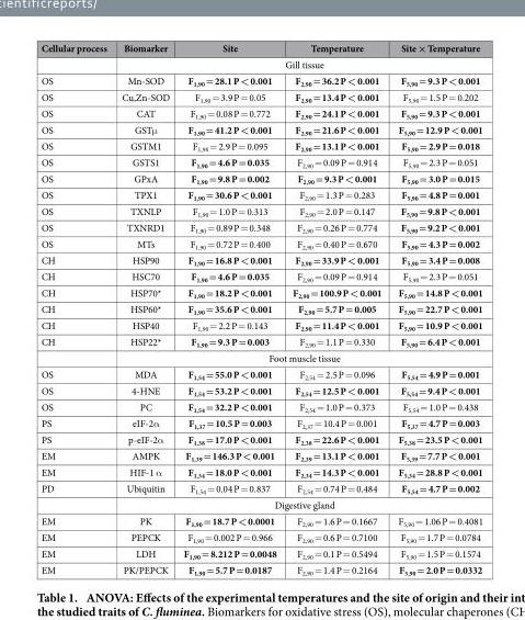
<table><thead><tr><td>Cellular process</td><td>Biomarker</td><td>Site</td><td>Temperature</td><td>Site × Temperature</td></tr></thead><tbody><tr><td></td><td colspan="4">Gill tissue</td></tr><tr><td>OS</td><td>Mn-SOD</td><td>F<sub>1,90</sub> = 28.1 P &lt; 0.001</td><td>F<sub>2,90</sub> = 36.2 P &lt; 0.001</td><td>F<sub>5,90</sub> = 9.3 P &lt; 0.001</td></tr><tr><td>OS</td><td>Cu,Zn-SOD</td><td>F<sub>1,90</sub> = 3.9 P = 0.05</td><td>F<sub>2,90</sub> = 13.4 P &lt; 0.001</td><td>F<sub>5,90</sub> = 1.5 P = 0.202</td></tr><tr><td>OS</td><td>CAT</td><td>F<sub>1,90</sub> = 0.08 P = 0.772</td><td>F<sub>2,90</sub> = 24.1 P &lt; 0.001</td><td>F<sub>5,90</sub> = 9.3 P &lt; 0.001</td></tr><tr><td>OS</td><td>GSTμ</td><td>F<sub>1,90</sub> = 41.2 P &lt; 0.001</td><td>F<sub>2,90</sub> = 21.6 P &lt; 0.001</td><td>F<sub>5,90</sub> = 12.9 P &lt; 0.001</td></tr><tr><td>OS</td><td>GSTM1</td><td>F<sub>1,90</sub> = 2.9 P = 0.095</td><td>F<sub>2,90</sub> = 13.1 P &lt; 0.001</td><td>F<sub>5,90</sub> = 2.9 P = 0.018</td></tr><tr><td>OS</td><td>GSTS1</td><td>F<sub>1,90</sub> = 4.6 P = 0.035</td><td>F<sub>2,90</sub> = 0.09 P = 0.914</td><td>F<sub>5,90</sub> = 2.3 P = 0.051</td></tr><tr><td>OS</td><td>GPxA</td><td>F<sub>1,90</sub> = 9.8 P = 0.002</td><td>F<sub>2,90</sub> = 9.3 P &lt; 0.001</td><td>F<sub>5,90</sub> = 3.0 P = 0.015</td></tr><tr><td>OS</td><td>TPX1</td><td>F<sub>1,90</sub> = 30.6 P &lt; 0.001</td><td>F<sub>2,90</sub> = 1.3 P = 0.283</td><td>F<sub>5,90</sub> = 4.8 P = 0.001</td></tr><tr><td>OS</td><td>TXNLP</td><td>F<sub>1,90</sub> = 1.0 P = 0.313</td><td>F<sub>2,90</sub> = 2.0 P = 0.147</td><td>F<sub>5,90</sub> = 9.8 P &lt; 0.001</td></tr><tr><td>OS</td><td>TXNRD1</td><td>F<sub>1,90</sub> = 0.89 P = 0.348</td><td>F<sub>2,90</sub> = 0.26 P = 0.774</td><td>F<sub>5,90</sub> = 9.2 P &lt; 0.001</td></tr><tr><td>OS</td><td>MTs</td><td>F<sub>1,90</sub> = 0.72 P = 0.400</td><td>F<sub>2,90</sub> = 0.40 P = 0.670</td><td>F<sub>5,90</sub> = 4.3 P = 0.002</td></tr><tr><td>CH</td><td>HSP90</td><td>F<sub>1,90</sub> = 16.8 P &lt; 0.001</td><td>F<sub>2,90</sub> = 33.9 P &lt; 0.001</td><td>F<sub>5,90</sub> = 3.4 P = 0.008</td></tr><tr><td>CH</td><td>HSC70</td><td>F<sub>1,90</sub> = 4.6 P = 0.035</td><td>F<sub>2,90</sub> = 0.09 P = 0.914</td><td>F<sub>5,90</sub> = 2.3 P = 0.051</td></tr><tr><td>CH</td><td>HSP70*</td><td>F<sub>1,90</sub> = 18.2 P &lt; 0.001</td><td>F<sub>2,90</sub> = 100.9 P &lt; 0.001</td><td>F<sub>5,90</sub> = 14.8 P &lt; 0.001</td></tr><tr><td>CH</td><td>HSP60*</td><td>F<sub>1,90</sub> = 35.6 P &lt; 0.001</td><td>F<sub>2,90</sub> = 5.7 P = 0.005</td><td>F<sub>5,90</sub> = 22.7 P &lt; 0.001</td></tr><tr><td>CH</td><td>HSP40</td><td>F<sub>1,90</sub> = 2.2 P = 0.143</td><td>F<sub>2,90</sub> = 11.4 P &lt; 0.001</td><td>F<sub>5,90</sub> = 10.9 P &lt; 0.001</td></tr><tr><td rowspan="2">CH</td><td>HSP22*</td><td>F<sub>1,90</sub> = 9.3 P = 0.003</td><td>F<sub>2,90</sub> = 1.1 P = 0.330</td><td>F<sub>5,90</sub> = 6.4 P &lt; 0.001</td></tr><tr><td colspan="4">Foot muscle tissue</td></tr><tr><td>OS</td><td>MDA</td><td>F<sub>1,54</sub> = 55.0 P &lt; 0.001</td><td>F<sub>2,54</sub> = 2.5 P = 0.096</td><td>F<sub>5,54</sub> = 4.9 P = 0.001</td></tr><tr><td>OS</td><td>4-HNE</td><td>F<sub>1,54</sub> = 53.2 P &lt; 0.001</td><td>F<sub>2,54</sub> = 12.5 P &lt; 0.001</td><td>F<sub>5,54</sub> = 9.4 P &lt; 0.001</td></tr><tr><td>OS</td><td>PC</td><td>F<sub>1,54</sub> = 32.2 P &lt; 0.001</td><td>F<sub>2,54</sub> = 1.0 P = 0.373</td><td>F<sub>5,54</sub> = 1.0 P = 0.438</td></tr><tr><td>PS</td><td>eIF-2α</td><td>F<sub>1,37</sub> = 10.5 P = 0.003</td><td>F<sub>2,37</sub> = 10.4 P = 0.001</td><td>F<sub>5,37</sub> = 4.7 P = 0.003</td></tr><tr><td>PS</td><td>p-eIF-2α</td><td>F<sub>1,38</sub> = 17.0 P &lt; 0.001</td><td>F<sub>2,38</sub> = 22.6 P &lt; 0.001</td><td>F<sub>5,38</sub> = 23.5 P &lt; 0.001</td></tr><tr><td>EM</td><td>AMPK</td><td>F<sub>1,39</sub> = 146.3 P &lt; 0.001</td><td>F<sub>2,39</sub> = 13.1 P &lt; 0.001</td><td>F<sub>5,39</sub> = 7.7 P &lt; 0.001</td></tr><tr><td>EM</td><td>HIF-1 α</td><td>F<sub>1,34</sub> = 18.0 P &lt; 0.001</td><td>F<sub>2,34</sub> = 14.3 P &lt; 0.001</td><td>F<sub>5,34</sub> = 28.8 P &lt; 0.001</td></tr><tr><td rowspan="2">PD</td><td>Ubiquitin</td><td>F<sub>1,54</sub> = 0.04 P = 0.837</td><td>F<sub>2,54</sub> = 0.74 P = 0.484</td><td>F<sub>5,54</sub> = 4.7 P = 0.002</td></tr><tr><td colspan="4">Digestive gland</td></tr><tr><td>EM</td><td>PK</td><td>F<sub>1,90</sub> = 18.7 P &lt; 0.0001</td><td>F<sub>2,90</sub> = 1.6 P = 0.1667</td><td>F<sub>5,90</sub> = 1.06 P = 0.4081</td></tr><tr><td>EM</td><td>PEPCK</td><td>F<sub>1,90</sub> = 0.002 P = 0.966</td><td>F<sub>2,90</sub> = 0.6 P = 0.7100</td><td>F<sub>5,90</sub> = 1.7 P = 0.0784</td></tr><tr><td>EM</td><td>LDH</td><td>F<sub>1,90</sub> = 8.212 P = 0.0048</td><td>F<sub>2,90</sub> = 0.1 P = 0.5494</td><td>F<sub>5,90</sub> = 1.5 P = 0.1574</td></tr><tr><td>EM</td><td>PK/PEPCK</td><td>F<sub>1,90</sub> = 5.7 P = 0.0187</td><td>F<sub>2,90</sub> = 1.4 P = 0.2164</td><td>F<sub>5,90</sub> = 2.0 P = 0.0332</td></tr></tbody></table>